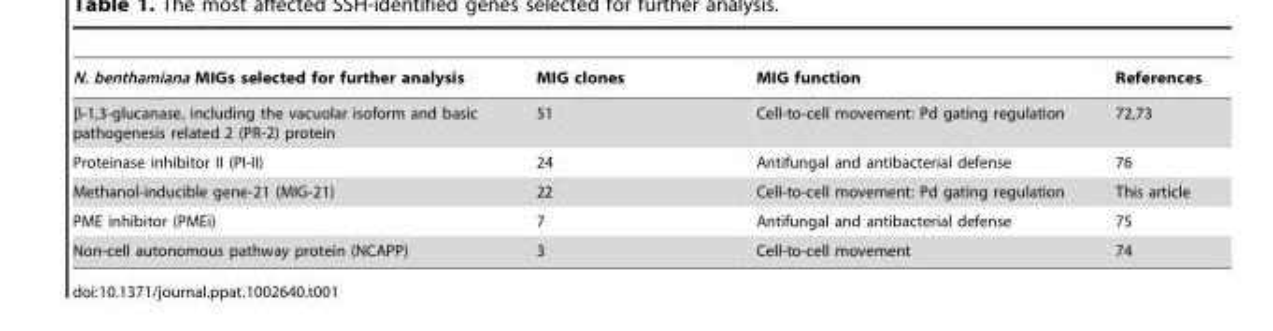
<table><thead><tr><td>N. benthamiana MIGs selected for further analysis</td><td>MIG clones</td><td>MIG function</td><td>References</td></tr></thead><tbody><tr><td>β-1,3-glucanase, including the vacuolar isoform and basic pathogenesis related 2 (PR-2) protein</td><td>51</td><td>Cell-to-cell movement: Pd gating regulation</td><td>72,73</td></tr><tr><td>Proteinase inhibitor II (PI-II)</td><td>24</td><td>Antifungal and antibacterial defense</td><td>76</td></tr><tr><td>Methanol-inducible gene-21 (MIG-21)</td><td>22</td><td>Cell-to-cell movement: Pd gating regulation</td><td>This article</td></tr><tr><td>PME inhibitor (PMEi)</td><td>7</td><td>Antifungal and antibacterial defense</td><td>75</td></tr><tr><td>Non-cell autonomous pathway protein (NCAPP)</td><td>3</td><td>Cell-to-cell movement</td><td>74</td></tr></tbody></table>